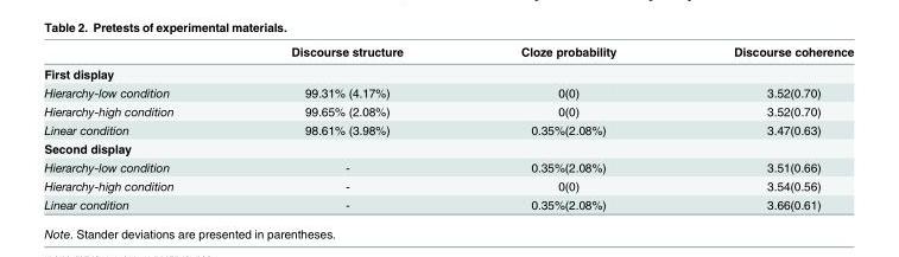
<table><thead><tr><td></td><td>Discourse structure</td><td>Cloze probability</td><td>Discourse coherence</td></tr></thead><tbody><tr><td colspan="4">First display</td></tr><tr><td>Hierarchy-low condition</td><td>99.31% (4.17%)</td><td>0(0)</td><td>3.52(0.70)</td></tr><tr><td>Hierarchy-high condition</td><td>99.65% (2.08%)</td><td>0(0)</td><td>3.52(0.70)</td></tr><tr><td>Linear condition</td><td>98.61% (3.98%)</td><td>0.35%(2.08%)</td><td>3.47(0.63)</td></tr><tr><td colspan="4">Second display</td></tr><tr><td>Hierarchy-low condition</td><td>-</td><td>0.35%(2.08%)</td><td>3.51(0.66)</td></tr><tr><td>Hierarchy-high condition</td><td>-</td><td>0(0)</td><td>3.54(0.56)</td></tr><tr><td>Linear condition</td><td>-</td><td>0.35%(2.08%)</td><td>3.66(0.61)</td></tr></tbody></table>